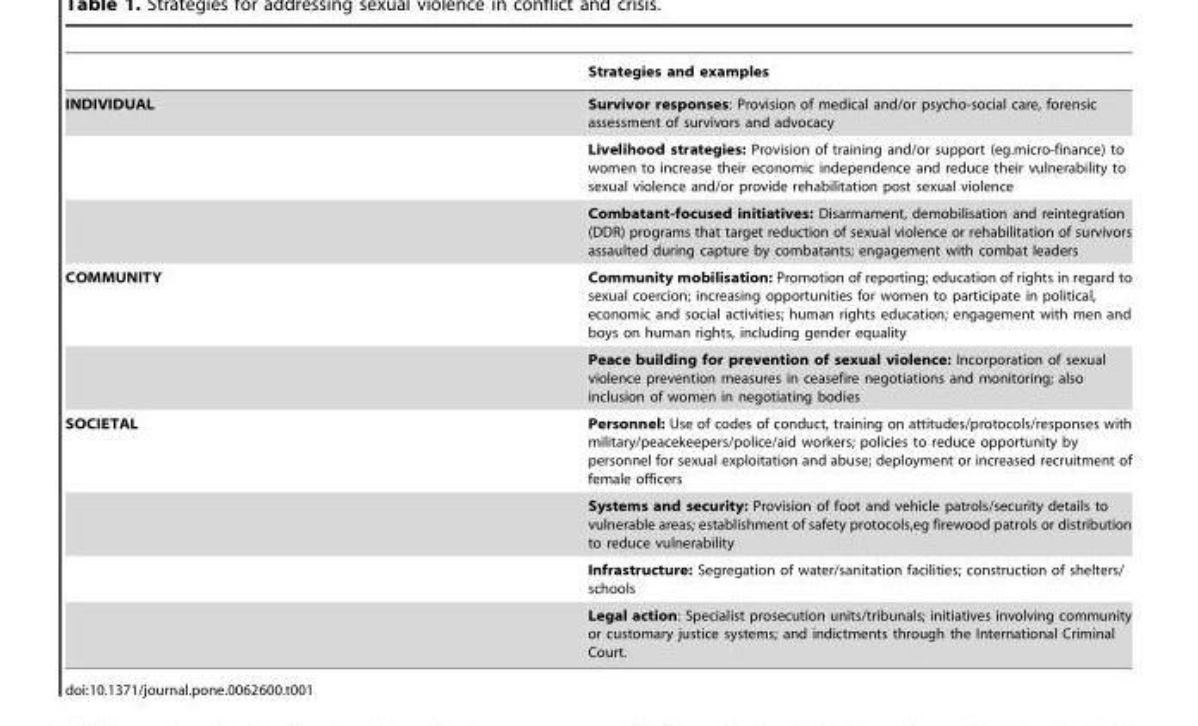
<table><thead><tr><td></td><td>Strategies and examples</td></tr></thead><tbody><tr><td rowspan="3">INDIVIDUAL</td><td>Survivor responses: Provision of medical and/or psycho-social care, forensic assessment of survivors and advocacy</td></tr><tr><td>Livelihood strategies: Provision of training and/or support (eg.micro-finance) to women to increase their economic independence and reduce their vulnerability to sexual violence and/or provide rehabilitation post sexual violence</td></tr><tr><td>Combatant-focused initiatives: Disarmament, demobilisation and reintegration (DDR) programs that target reduction of sexual violence or rehabilitation of survivors assaulted during capture by combatants; engagement with combat leaders</td></tr><tr><td rowspan="2">COMMUNITY</td><td>Community mobilisation: Promotion of reporting; education of rights in regard to sexual coercion; increasing opportunities for women to participate in political, economic and social activities; human rights education; engagement with men and boys on human rights, including gender equality</td></tr><tr><td>Peace building for prevention of sexual violence: Incorporation of sexual violence prevention measures in ceasefire negotiations and monitoring; also inclusion of women in negotiating bodies</td></tr><tr><td rowspan="4">SOCIETAL</td><td>Personnel: Use of codes of conduct, training on attitudes/protocols/responses with military/peacekeepers/police/aid workers; policies to reduce opportunity by personnel for sexual exploitation and abuse; deployment or increased recruitment of female officers</td></tr><tr><td>Systems and security: Provision of foot and vehicle patrols/security details to vulnerable areas; establishment of safety protocols,eg firewood patrols or distribution to reduce vulnerability</td></tr><tr><td>Infrastructure: Segregation of water/sanitation facilities; construction of shelters/ schools</td></tr><tr><td>Legal action: Specialist prosecution units/tribunals; initiatives involving community or customary justice systems; and indictments through the International Criminal Court.</td></tr></tbody></table>